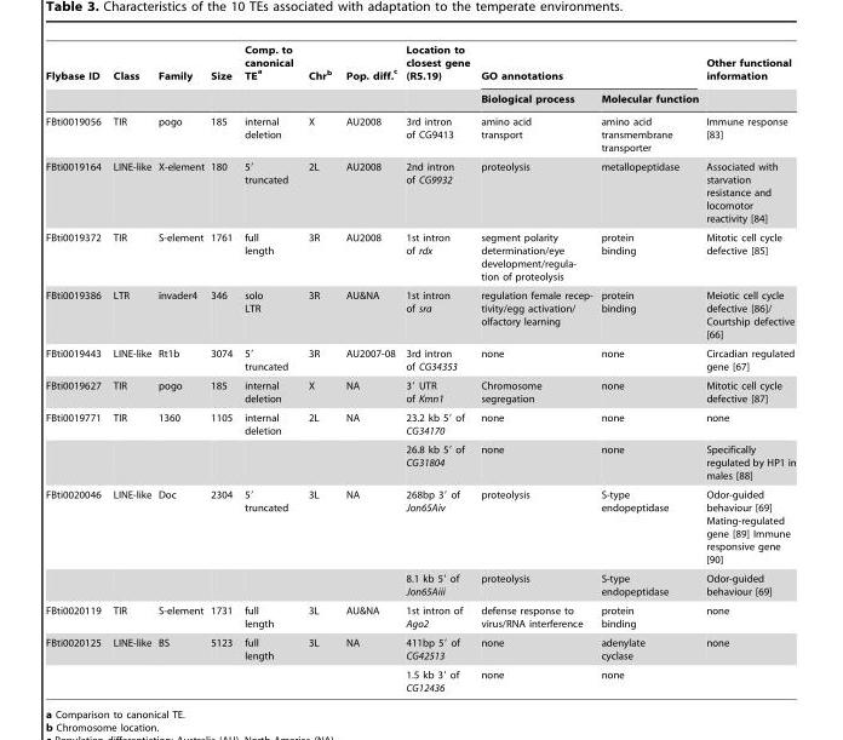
<table><thead><tr><td rowspan="2">Flybase ID</td><td rowspan="2">Class</td><td rowspan="2">Family</td><td rowspan="2">Size</td><td rowspan="2">Comp. to canonical TE <sup>a</sup></td><td rowspan="2">Chr<sup>b</sup></td><td rowspan="2">Pop. diff. <sup>c</sup></td><td rowspan="2">Location to closest gene (R5.19)</td><td colspan="2">GO annotations</td><td rowspan="2">Other functional information</td></tr><tr><td>Biological process</td><td>Molecular function</td></tr></thead><tbody><tr><td>FBti0019056</td><td>TIR</td><td>pogo</td><td>185</td><td>internal deletion</td><td>X</td><td>AU2008</td><td>3rd intron of CG9413</td><td>amino acid transport</td><td>amino acid transmembrane transporter</td><td>Immune response [83]</td></tr><tr><td>FBti0019164</td><td>LINE-like</td><td>X-element</td><td>180</td><td>5′ truncated</td><td>2L</td><td>AU2008</td><td>2nd intron of CG9932</td><td>proteolysis</td><td>metallopeptidase</td><td>Associated with starvation resistance and locomotor reactivity [84]</td></tr><tr><td>FBti0019372</td><td>TIR</td><td>S-element</td><td>1761</td><td>full length</td><td>3R</td><td>AU2008</td><td>1st intron of rdx</td><td>segment polarity determination/eye development/regula- tion of proteolysis</td><td>protein binding</td><td>Mitotic cell cycle defective [85]</td></tr><tr><td>FBti0019386</td><td>LTR</td><td>invader4</td><td>346</td><td>solo LTR</td><td>3R</td><td>AU&amp;NA</td><td>1st intron of sra</td><td>regulation female recep- tivity/egg activation/ olfactory learning</td><td>protein binding</td><td>Meiotic cell cycle defective [86]/ Courtship defective [66]</td></tr><tr><td>FBti0019443</td><td>LINE-like</td><td>Rt1b</td><td>3074</td><td>5′ truncated</td><td>3R</td><td>AU2007-08</td><td>3rd intron of CG34353</td><td>none</td><td>none</td><td>Circadian regulated gene [67]</td></tr><tr><td>FBti0019627</td><td>TIR</td><td>pogo</td><td>185</td><td>internal deletion</td><td>X</td><td>NA</td><td>3′ UTR of Kmn1</td><td>Chromosome segregation</td><td>none</td><td>Mitotic cell cycle defective [87]</td></tr><tr><td rowspan="2">FBti0019771</td><td>TIR</td><td>1360</td><td>1105</td><td>internal deletion</td><td>2L</td><td>NA</td><td>23.2 kb 5′ of CG34170</td><td>none</td><td>none</td><td>none</td></tr><tr><td></td><td></td><td></td><td></td><td></td><td></td><td>26.8 kb 5′ of CG31804</td><td>none</td><td>none</td><td>Specifically regulated by HP1 in males [88]</td></tr><tr><td rowspan="2">FBti0020046</td><td>LINE-like</td><td>Doc</td><td>2304</td><td>5′ truncated</td><td>3L</td><td>NA</td><td>268bp 3′ of Jon65Aiv</td><td>proteolysis</td><td>S-type endopeptidase</td><td>Odor-guided behaviour [69] Mating-regulated gene [89] Immune responsive gene [90]</td></tr><tr><td></td><td></td><td></td><td></td><td></td><td></td><td>8.1 kb 5′ of Jon65Aiii</td><td>proteolysis</td><td>S-type endopeptidase</td><td>Odor-guided behaviour [69]</td></tr><tr><td>FBti0020119</td><td>TIR</td><td>S-element</td><td>1731</td><td>full length</td><td>3L</td><td>AU&amp;NA</td><td>1st intron of Ago2</td><td>defense response to virus/RNA interference</td><td>protein binding</td><td>none</td></tr><tr><td rowspan="2">FBti0020125</td><td>LINE-like</td><td>BS</td><td>5123</td><td>full length</td><td>3L</td><td>NA</td><td>411bp 5′ of CG42513</td><td>none</td><td>adenylate cyclase</td><td>none</td></tr><tr><td></td><td></td><td></td><td></td><td></td><td></td><td>1.5 kb 3′ of CG12436</td><td>none</td><td>none</td><td></td></tr></tbody></table>